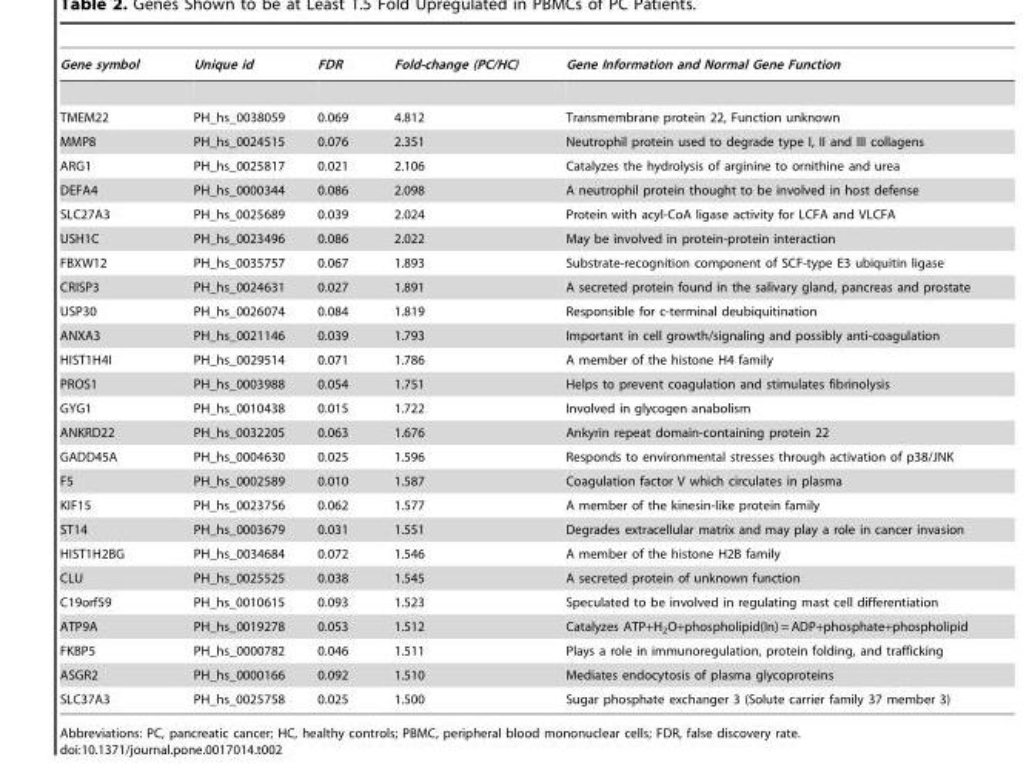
<table><thead><tr><td>Gene symbol</td><td>Unique id</td><td>FDR</td><td>Fold-change (PC/HC)</td><td>Gene Information and Normal Gene Function</td></tr></thead><tbody><tr><td>TMEM22</td><td>PH_hs_0038059</td><td>0.069</td><td>4.812</td><td>Transmembrane protein 22, Function unknown</td></tr><tr><td>MMP8</td><td>PH_hs_0024515</td><td>0.076</td><td>2.351</td><td>Neutrophil protein used to degrade type I, II and III collagens</td></tr><tr><td>ARG1</td><td>PH_hs_0025817</td><td>0.021</td><td>2.106</td><td>Catalyzes the hydrolysis of arginine to ornithine and urea</td></tr><tr><td>DEFA4</td><td>PH_hs_0000344</td><td>0.086</td><td>2.098</td><td>A neutrophil protein thought to be involved in host defense</td></tr><tr><td>SLC27A3</td><td>PH_hs_0025689</td><td>0.039</td><td>2.024</td><td>Protein with acyl-CoA ligase activity for LCFA and VLCFA</td></tr><tr><td>USH1C</td><td>PH_hs_0023496</td><td>0.086</td><td>2.022</td><td>May be involved in protein-protein interaction</td></tr><tr><td>FBXW12</td><td>PH_hs_0035757</td><td>0.067</td><td>1.893</td><td>Substrate-recognition component of SCF-type E3 ubiquitin ligase</td></tr><tr><td>CRISP3</td><td>PH_hs_0024631</td><td>0.027</td><td>1.891</td><td>A secreted protein found in the salivary gland, pancreas and prostate</td></tr><tr><td>USP30</td><td>PH_hs_0026074</td><td>0.084</td><td>1.819</td><td>Responsible for c-terminal deubiquitination</td></tr><tr><td>ANXA3</td><td>PH_hs_0021146</td><td>0.039</td><td>1.793</td><td>Important in cell growth/signaling and possibly anti-coagulation</td></tr><tr><td>HIST1H4I</td><td>PH_hs_0029514</td><td>0.071</td><td>1.786</td><td>A member of the histone H4 family</td></tr><tr><td>PROS1</td><td>PH_hs_0003988</td><td>0.054</td><td>1.751</td><td>Helps to prevent coagulation and stimulates fibrinolysis</td></tr><tr><td>GYG1</td><td>PH_hs_0010438</td><td>0.015</td><td>1.722</td><td>Involved in glycogen anabolism</td></tr><tr><td>ANKRD22</td><td>PH_hs_0032205</td><td>0.063</td><td>1.676</td><td>Ankyrin repeat domain-containing protein 22</td></tr><tr><td>GADD45A</td><td>PH_hs_0004630</td><td>0.025</td><td>1.596</td><td>Responds to environmental stresses through activation of p38/JNK</td></tr><tr><td>F5</td><td>PH_hs_0002589</td><td>0.010</td><td>1.587</td><td>Coagulation factor V which circulates in plasma</td></tr><tr><td>KIF15</td><td>PH_hs_0023756</td><td>0.062</td><td>1.577</td><td>A member of the kinesin-like protein family</td></tr><tr><td>ST14</td><td>PH_hs_0003679</td><td>0.031</td><td>1.551</td><td>Degrades extracellular matrix and may play a role in cancer invasion</td></tr><tr><td>HIST1H2BG</td><td>PH_hs_0034684</td><td>0.072</td><td>1.546</td><td>A member of the histone H2B family</td></tr><tr><td>CLU</td><td>PH_hs_0025525</td><td>0.038</td><td>1.545</td><td>A secreted protein of unknown function</td></tr><tr><td>C19orf59</td><td>PH_hs_0010615</td><td>0.093</td><td>1.523</td><td>Speculated to be involved in regulating mast cell differentiation</td></tr><tr><td>ATP9A</td><td>PH_hs_0019278</td><td>0.053</td><td>1.512</td><td>Catalyzes ATP+H<sub>2</sub>O+phospholipid(In) = ADP+phosphate+phospholipid</td></tr><tr><td>FKBP5</td><td>PH_hs_0000782</td><td>0.046</td><td>1.511</td><td>Plays a role in immunoregulation, protein folding, and trafficking</td></tr><tr><td>ASGR2</td><td>PH_hs_0000166</td><td>0.092</td><td>1.510</td><td>Mediates endocytosis of plasma glycoproteins</td></tr><tr><td>SLC37A3</td><td>PH_hs_0025758</td><td>0.025</td><td>1.500</td><td>Sugar phosphate exchanger 3 (Solute carrier family 37 member 3)</td></tr></tbody></table>